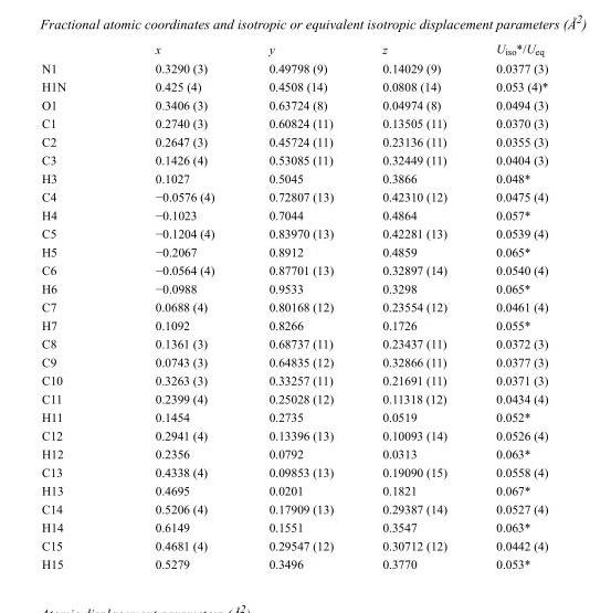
<table><thead><tr><td></td><td>x</td><td>y</td><td>z</td><td>U<sub>iso</sub>*/U<sub>eq</sub></td></tr></thead><tbody><tr><td>N1</td><td>0.3290 (3)</td><td>0.49798 (9)</td><td>0.14029 (9)</td><td>0.0377 (3)</td></tr><tr><td>H1N</td><td>0.425 (4)</td><td>0.4508 (14)</td><td>0.0808 (14)</td><td>0.053 (4)*</td></tr><tr><td>O1</td><td>0.3406 (3)</td><td>0.63724 (8)</td><td>0.04974 (8)</td><td>0.0494 (3)</td></tr><tr><td>C1</td><td>0.2740 (3)</td><td>0.60824 (11)</td><td>0.13505 (11)</td><td>0.0370 (3)</td></tr><tr><td>C2</td><td>0.2647 (3)</td><td>0.45724 (11)</td><td>0.23136 (11)</td><td>0.0355 (3)</td></tr><tr><td>C3</td><td>0.1426 (4)</td><td>0.53085 (11)</td><td>0.32449 (11)</td><td>0.0404 (3)</td></tr><tr><td>H3</td><td>0.1027</td><td>0.5045</td><td>0.3866</td><td>0.048*</td></tr><tr><td>C4</td><td>−0.0576 (4)</td><td>0.72807 (13)</td><td>0.42310 (12)</td><td>0.0475 (4)</td></tr><tr><td>H4</td><td>−0.1023</td><td>0.7044</td><td>0.4864</td><td>0.057*</td></tr><tr><td>C5</td><td>−0.1204 (4)</td><td>0.83970 (13)</td><td>0.42281 (13)</td><td>0.0539 (4)</td></tr><tr><td>H5</td><td>−0.2067</td><td>0.8912</td><td>0.4859</td><td>0.065*</td></tr><tr><td>C6</td><td>−0.0564 (4)</td><td>0.87701 (13)</td><td>0.32897 (14)</td><td>0.0540 (4)</td></tr><tr><td>H6</td><td>−0.0988</td><td>0.9533</td><td>0.3298</td><td>0.065*</td></tr><tr><td>C7</td><td>0.0688 (4)</td><td>0.80168 (12)</td><td>0.23554 (12)</td><td>0.0461 (4)</td></tr><tr><td>H7</td><td>0.1092</td><td>0.8266</td><td>0.1726</td><td>0.055*</td></tr><tr><td>C8</td><td>0.1361 (3)</td><td>0.68737 (11)</td><td>0.23437 (11)</td><td>0.0372 (3)</td></tr><tr><td>C9</td><td>0.0743 (3)</td><td>0.64835 (12)</td><td>0.32866 (11)</td><td>0.0377 (3)</td></tr><tr><td>C10</td><td>0.3263 (3)</td><td>0.33257 (11)</td><td>0.21691 (11)</td><td>0.0371 (3)</td></tr><tr><td>C11</td><td>0.2399 (4)</td><td>0.25028 (12)</td><td>0.11318 (12)</td><td>0.0434 (4)</td></tr><tr><td>H11</td><td>0.1454</td><td>0.2735</td><td>0.0519</td><td>0.052*</td></tr><tr><td>C12</td><td>0.2941 (4)</td><td>0.13396 (13)</td><td>0.10093 (14)</td><td>0.0526 (4)</td></tr><tr><td>H12</td><td>0.2356</td><td>0.0792</td><td>0.0313</td><td>0.063*</td></tr><tr><td>C13</td><td>0.4338 (4)</td><td>0.09853 (13)</td><td>0.19090 (15)</td><td>0.0558 (4)</td></tr><tr><td>H13</td><td>0.4695</td><td>0.0201</td><td>0.1821</td><td>0.067*</td></tr><tr><td>C14</td><td>0.5206 (4)</td><td>0.17909 (13)</td><td>0.29387 (14)</td><td>0.0527 (4)</td></tr><tr><td>H14</td><td>0.6149</td><td>0.1551</td><td>0.3547</td><td>0.063*</td></tr><tr><td>C15</td><td>0.4681 (4)</td><td>0.29547 (12)</td><td>0.30712 (12)</td><td>0.0442 (4)</td></tr><tr><td>H15</td><td>0.5279</td><td>0.3496</td><td>0.3770</td><td>0.053*</td></tr></tbody></table>